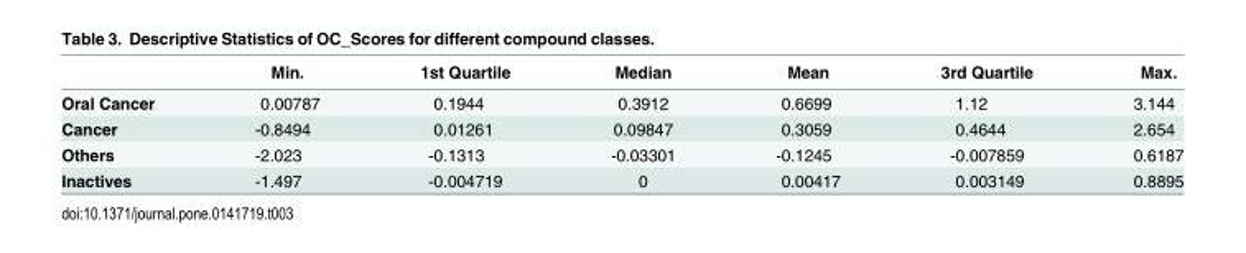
<table><thead><tr><td></td><td>Min.</td><td>1st Quartile</td><td>Median</td><td>Mean</td><td>3rd Quartile</td><td>Max.</td></tr></thead><tbody><tr><td>Oral Cancer</td><td>0.00787</td><td>0.1944</td><td>0.3912</td><td>0.6699</td><td>1.12</td><td>3.144</td></tr><tr><td>Cancer</td><td>-0.8494</td><td>0.01261</td><td>0.09847</td><td>0.3059</td><td>0.4644</td><td>2.654</td></tr><tr><td>Others</td><td>-2.023</td><td>-0.1313</td><td>-0.03301</td><td>-0.1245</td><td>-0.007859</td><td>0.6187</td></tr><tr><td>Inactives</td><td>-1.497</td><td>-0.004719</td><td>0</td><td>0.00417</td><td>0.003149</td><td>0.8895</td></tr></tbody></table>